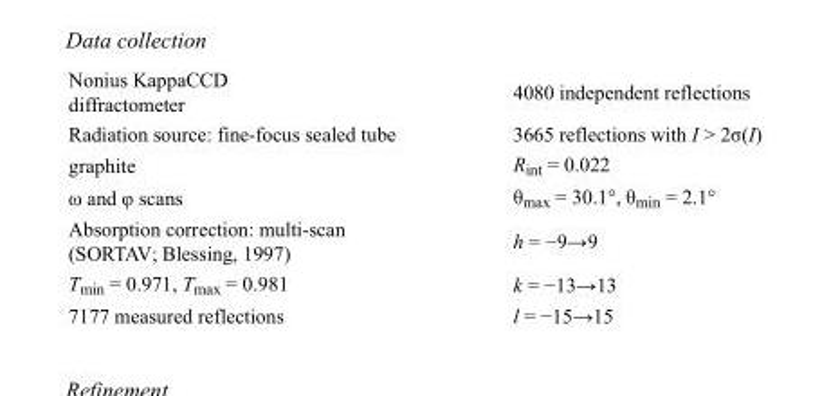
<table><tbody><tr><td>Nonius KappaCCD diffractometer</td><td>4080 independent reflections</td></tr><tr><td>Radiation source: fine-focus sealed tube</td><td>3665 reflections with I &gt; 2σ(I)</td></tr><tr><td>graphite</td><td>R<sub>int</sub> = 0.022</td></tr><tr><td>ω and φ scans</td><td>θ<sub>max</sub> = 30.1°, θ<sub>min</sub> = 2.1°</td></tr><tr><td>Absorption correction: multi-scan (SORTAV; Blessing, 1997)</td><td>h = −9→9</td></tr><tr><td>T<sub>min</sub> = 0.971, T<sub>max</sub> = 0.981</td><td>k = −13→13</td></tr><tr><td>7177 measured reflections</td><td>l = −15→15</td></tr></tbody></table>